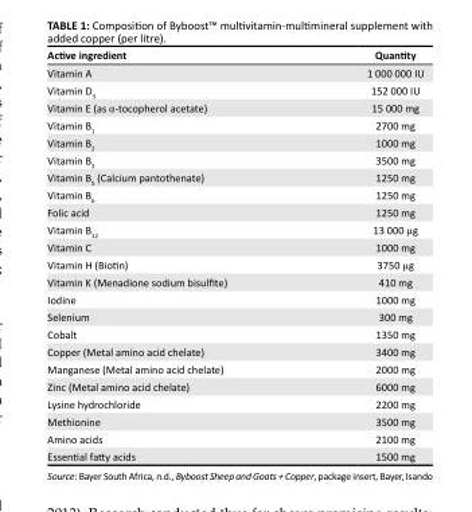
<table><thead><tr><td>Active ingredient</td><td>Quantity</td></tr></thead><tbody><tr><td>Vitamin A</td><td>1 000 000 IU</td></tr><tr><td>Vitamin D<sub>3</sub></td><td>152 000 IU</td></tr><tr><td>Vitamin E (as α-tocopherol acetate)</td><td>15 000 mg</td></tr><tr><td>Vitamin B<sub>1</sub></td><td>2700 mg</td></tr><tr><td>Vitamin B<sub>2</sub></td><td>1000 mg</td></tr><tr><td>Vitamin B<sub>3</sub></td><td>3500 mg</td></tr><tr><td>Vitamin B<sub>5</sub> (Calcium pantothenate)</td><td>1250 mg</td></tr><tr><td>Vitamin B<sub>6</sub></td><td>1250 mg</td></tr><tr><td>Folic acid</td><td>1250 mg</td></tr><tr><td>Vitamin B<sub>12</sub></td><td>13 000 µg</td></tr><tr><td>Vitamin C</td><td>1000 mg</td></tr><tr><td>Vitamin H (Biotin)</td><td>3750 µg</td></tr><tr><td>Vitamin K (Menadione sodium bisulfite)</td><td>410 mg</td></tr><tr><td>Iodine</td><td>1000 mg</td></tr><tr><td>Selenium</td><td>300 mg</td></tr><tr><td>Cobalt</td><td>1350 mg</td></tr><tr><td>Copper (Metal amino acid chelate)</td><td>3400 mg</td></tr><tr><td>Manganese (Metal amino acid chelate)</td><td>2000 mg</td></tr><tr><td>Zinc (Metal amino acid chelate)</td><td>6000 mg</td></tr><tr><td>Lysine hydrochloride</td><td>2200 mg</td></tr><tr><td>Methionine</td><td>3500 mg</td></tr><tr><td>Amino acids</td><td>2100 mg</td></tr><tr><td>Essential fatty acids</td><td>1500 mg</td></tr></tbody></table>